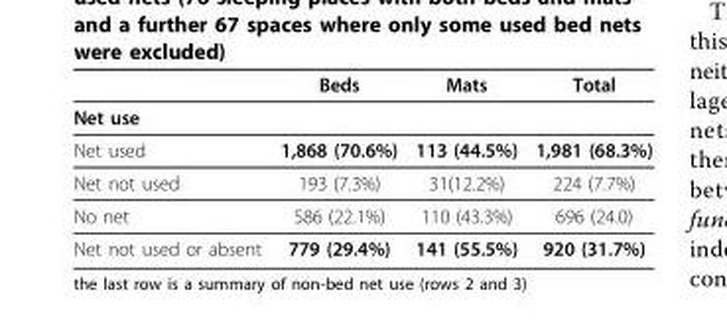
<table><thead><tr><td></td><td>Beds</td><td>Mats</td><td>Total</td></tr></thead><tbody><tr><td colspan="4">Net use</td></tr><tr><td>Net used</td><td>1,868 (70.6%)</td><td>113 (44.5%)</td><td>1,981 (68.3%)</td></tr><tr><td>Net not used</td><td>193 (7.3%)</td><td>31(12.2%)</td><td>224 (7.7%)</td></tr><tr><td>No net</td><td>586 (22.1%)</td><td>110 (43.3%)</td><td>696 (24.0)</td></tr><tr><td>Net not used or absent</td><td>779 (29.4%)</td><td>141 (55.5%)</td><td>920 (31.7%)</td></tr></tbody></table>